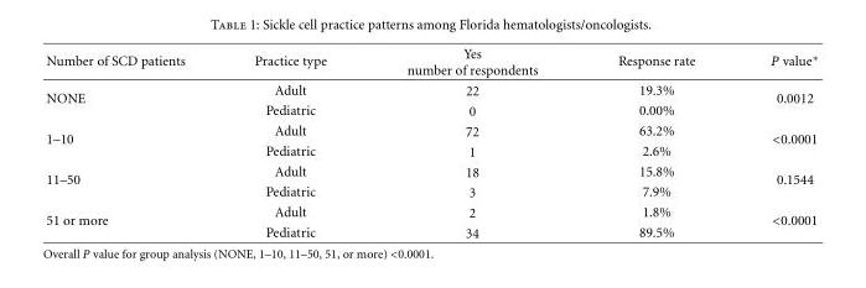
<table><thead><tr><td>Number of SCD patients</td><td>Practice type</td><td>Yes number of respondents</td><td>Response rate</td><td>P value∗</td></tr></thead><tbody><tr><td rowspan="2">NONE</td><td>Adult</td><td>22</td><td>19.3%</td><td rowspan="2">0.0012</td></tr><tr><td>Pediatric</td><td>0</td><td>0.00%</td></tr><tr><td rowspan="2">1–10</td><td>Adult</td><td>72</td><td>63.2%</td><td rowspan="2">&lt;0.0001</td></tr><tr><td>Pediatric</td><td>1</td><td>2.6%</td></tr><tr><td rowspan="2">11–50</td><td>Adult</td><td>18</td><td>15.8%</td><td rowspan="2">0.1544</td></tr><tr><td>Pediatric</td><td>3</td><td>7.9%</td></tr><tr><td rowspan="2">51 or more</td><td>Adult</td><td>2</td><td>1.8%</td><td rowspan="2">&lt;0.0001</td></tr><tr><td>Pediatric</td><td>34</td><td>89.5%</td></tr></tbody></table>